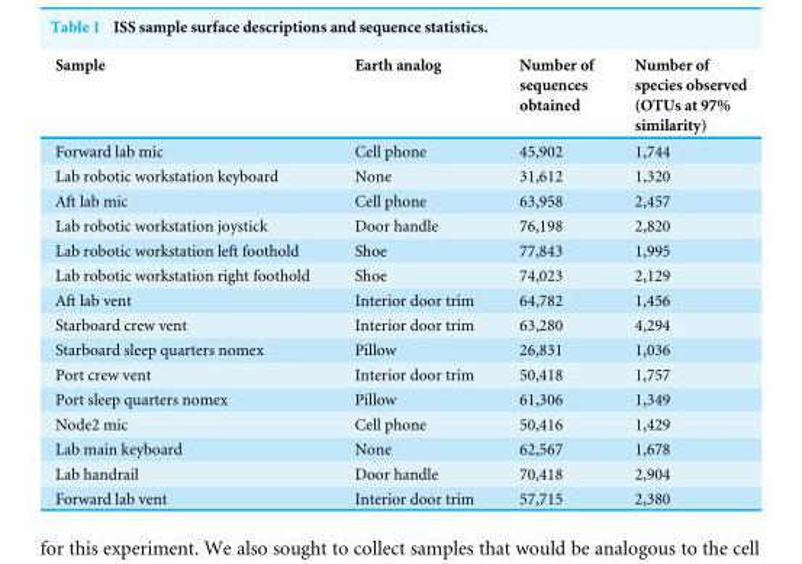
<table><thead><tr><td>Sample</td><td>Earth analog</td><td>Number of sequences obtained</td><td>Number of species observed (OTUs at 97% similarity)</td></tr></thead><tbody><tr><td>Forward lab mic</td><td>Cell phone</td><td>45,902</td><td>1,744</td></tr><tr><td>Lab robotic workstation keyboard</td><td>None</td><td>31,612</td><td>1,320</td></tr><tr><td>Aft lab mic</td><td>Cell phone</td><td>63,958</td><td>2,457</td></tr><tr><td>Lab robotic workstation joystick</td><td>Door handle</td><td>76,198</td><td>2,820</td></tr><tr><td>Lab robotic workstation left foothold</td><td>Shoe</td><td>77,843</td><td>1,995</td></tr><tr><td>Lab robotic workstation right foothold</td><td>Shoe</td><td>74,023</td><td>2,129</td></tr><tr><td>Aft lab vent</td><td>Interior door trim</td><td>64,782</td><td>1,456</td></tr><tr><td>Starboard crew vent</td><td>Interior door trim</td><td>63,280</td><td>4,294</td></tr><tr><td>Starboard sleep quarters nomex</td><td>Pillow</td><td>26,831</td><td>1,036</td></tr><tr><td>Port crew vent</td><td>Interior door trim</td><td>50,418</td><td>1,757</td></tr><tr><td>Port sleep quarters nomex</td><td>Pillow</td><td>61,306</td><td>1,349</td></tr><tr><td>Node2 mic</td><td>Cell phone</td><td>50,416</td><td>1,429</td></tr><tr><td>Lab main keyboard</td><td>None</td><td>62,567</td><td>1,678</td></tr><tr><td>Lab handrail</td><td>Door handle</td><td>70,418</td><td>2,904</td></tr><tr><td>Forward lab vent</td><td>Interior door trim</td><td>57,715</td><td>2,380</td></tr></tbody></table>